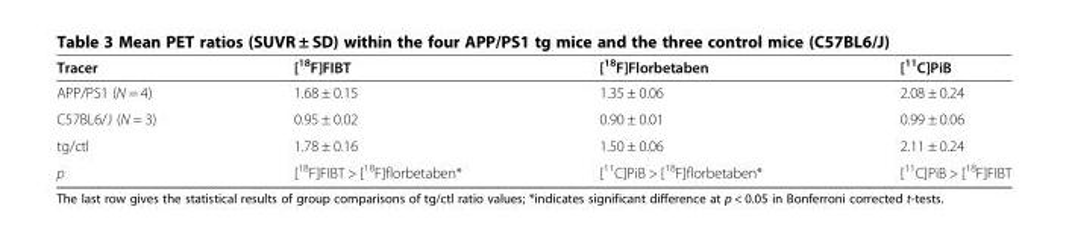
<table><thead><tr><td>Tracer</td><td>[<sup>18</sup>F]FIBT</td><td>[<sup>18</sup>F]Florbetaben</td><td>[<sup>11</sup>C]PiB</td></tr></thead><tbody><tr><td>APP/PS1 (N = 4)</td><td>1.68 ± 0.15</td><td>1.35 ± 0.06</td><td>2.08 ± 0.24</td></tr><tr><td>C57BL6/J (N = 3)</td><td>0.95 ± 0.02</td><td>0.90 ± 0.01</td><td>0.99 ± 0.06</td></tr><tr><td>tg/ctl</td><td>1.78 ± 0.16</td><td>1.50 ± 0.06</td><td>2.11 ± 0.24</td></tr><tr><td>p</td><td>[<sup>18</sup>F]FIBT &gt; [<sup>18</sup>F]florbetaben*</td><td>[<sup>11</sup>C]PiB &gt; [<sup>18</sup>F]florbetaben*</td><td>[<sup>11</sup>C]PiB &gt; [<sup>18</sup>F]FIBT</td></tr></tbody></table>